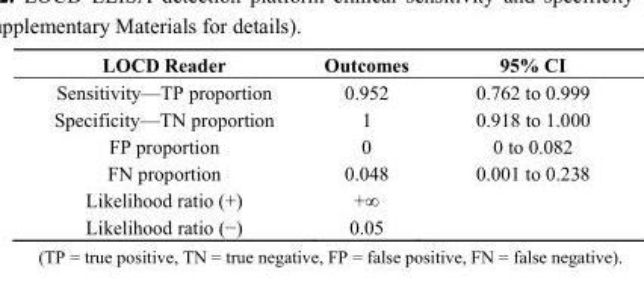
<table><thead><tr><td>LOCD Reader</td><td>Outcomes</td><td>95% CI</td></tr></thead><tbody><tr><td>Sensitivity—TP proportion</td><td>0.952</td><td>0.762 to 0.999</td></tr><tr><td>Specificity—TN proportion</td><td>1</td><td>0.918 to 1.000</td></tr><tr><td>FP proportion</td><td>0</td><td>0 to 0.082</td></tr><tr><td>FN proportion</td><td>0.048</td><td>0.001 to 0.238</td></tr><tr><td>Likelihood ratio (+)</td><td>+∞</td><td></td></tr><tr><td>Likelihood ratio (−)</td><td>0.05</td><td></td></tr></tbody></table>